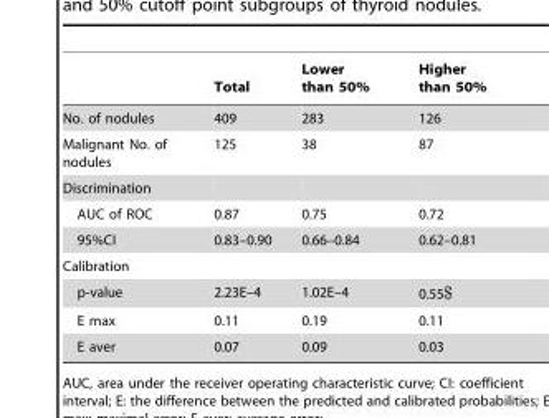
<table><thead><tr><td></td><td>Total</td><td>Lower than 50%</td><td>Higher than 50%</td></tr></thead><tbody><tr><td>No. of nodules</td><td>409</td><td>283</td><td>126</td></tr><tr><td>Malignant No. of nodules</td><td>125</td><td>38</td><td>87</td></tr><tr><td colspan="4">Discrimination</td></tr><tr><td>AUC of ROC</td><td>0.87</td><td>0.75</td><td>0.72</td></tr><tr><td>95%CI</td><td>0.83–0.90</td><td>0.66–0.84</td><td>0.62–0.81</td></tr><tr><td colspan="4">Calibration</td></tr><tr><td>p-value</td><td>2.23E–4</td><td>1.02E–4</td><td>0.55$</td></tr><tr><td>E max</td><td>0.11</td><td>0.19</td><td>0.11</td></tr><tr><td>E aver</td><td>0.07</td><td>0.09</td><td>0.03</td></tr></tbody></table>